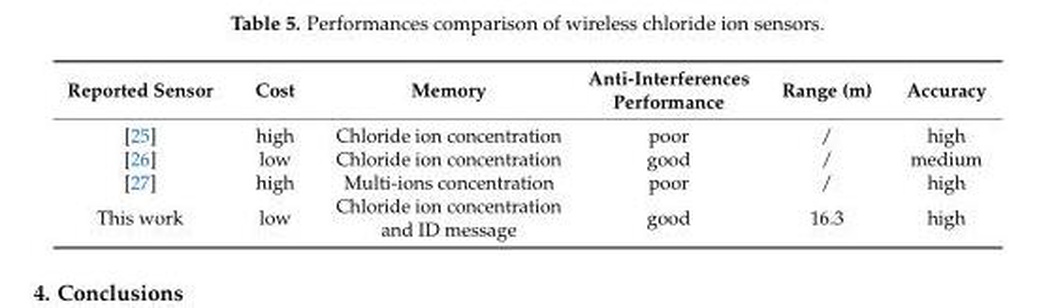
<table><thead><tr><td>Reported Sensor</td><td>Cost</td><td>Memory</td><td>Anti-Interferences Performance</td><td>Range (m)</td><td>Accuracy</td></tr></thead><tbody><tr><td>[25]</td><td>high</td><td>Chloride ion concentration</td><td>poor</td><td>/</td><td>high</td></tr><tr><td>[26]</td><td>low</td><td>Chloride ion concentration</td><td>good</td><td>/</td><td>medium</td></tr><tr><td>[27]</td><td>high</td><td>Multi-ions concentration</td><td>poor</td><td>/</td><td>high</td></tr><tr><td>This work</td><td>low</td><td>Chloride ion concentration and ID message</td><td>good</td><td>16.3</td><td>high</td></tr></tbody></table>